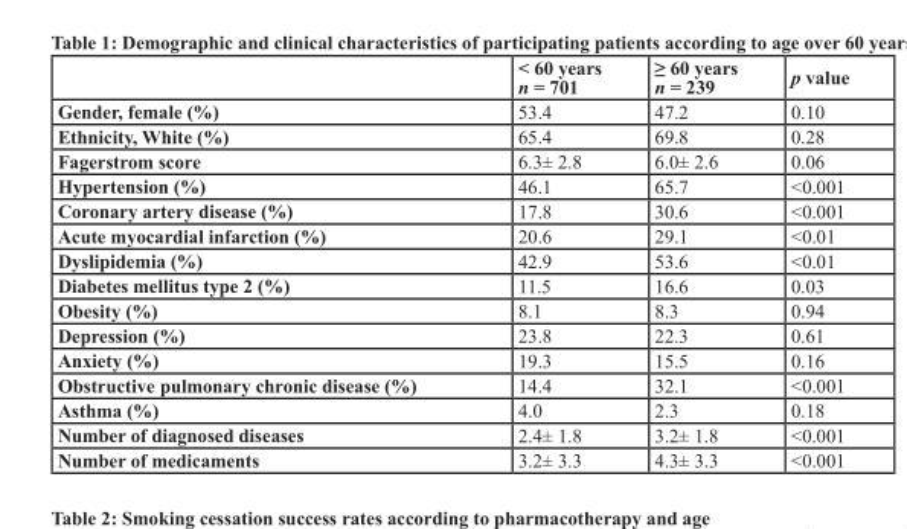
<table><thead><tr><td></td><td>&lt; 60 years n = 701</td><td>≥ 60 years n = 239</td><td>p value</td></tr></thead><tbody><tr><td>Gender, female (%)</td><td>53.4</td><td>47.2</td><td>0.10</td></tr><tr><td>Ethnicity, White (%)</td><td>65.4</td><td>69.8</td><td>0.28</td></tr><tr><td>Fagerstrom score</td><td>6.3± 2.8</td><td>6.0± 2.6</td><td>0.06</td></tr><tr><td>Hypertension (%)</td><td>46.1</td><td>65.7</td><td>&lt;0.001</td></tr><tr><td>Coronary artery disease (%)</td><td>17.8</td><td>30.6</td><td>&lt;0.001</td></tr><tr><td>Acute myocardial infarction (%)</td><td>20.6</td><td>29.1</td><td>&lt;0.01</td></tr><tr><td>Dyslipidemia (%)</td><td>42.9</td><td>53.6</td><td>&lt;0.01</td></tr><tr><td>Diabetes mellitus type 2 (%)</td><td>11.5</td><td>16.6</td><td>0.03</td></tr><tr><td>Obesity (%)</td><td>8.1</td><td>8.3</td><td>0.94</td></tr><tr><td>Depression (%)</td><td>23.8</td><td>22.3</td><td>0.61</td></tr><tr><td>Anxiety (%)</td><td>19.3</td><td>15.5</td><td>0.16</td></tr><tr><td>Obstructive pulmonary chronic disease (%)</td><td>14.4</td><td>32.1</td><td>&lt;0.001</td></tr><tr><td>Asthma (%)</td><td>4.0</td><td>2.3</td><td>0.18</td></tr><tr><td>Number of diagnosed diseases</td><td>2.4± 1.8</td><td>3.2± 1.8</td><td>&lt;0.001</td></tr><tr><td>Number of medicaments</td><td>3.2± 3.3</td><td>4.3± 3.3</td><td>&lt;0.001</td></tr></tbody></table>